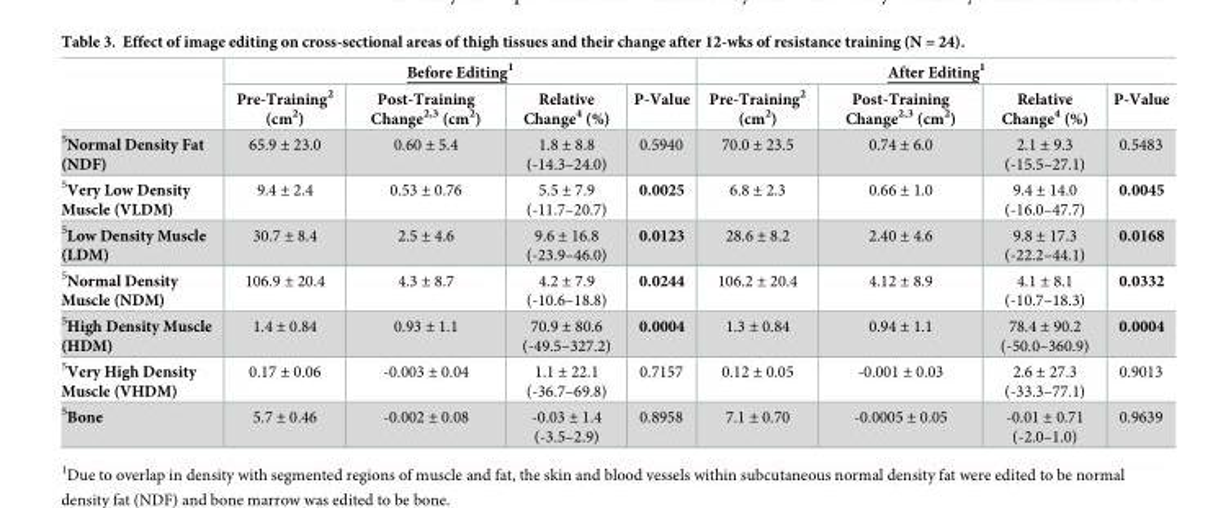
<table><thead><tr><td rowspan="2"></td><td colspan="4">Before Editing<sup>1</sup></td><td colspan="4">After Editing<sup>1</sup></td></tr><tr><td>Pre-Training<sup>2</sup> (cm<sup>2</sup>)</td><td>Post-Training Change<sup>2,3</sup> (cm<sup>2</sup>)</td><td>Relative Change<sup>4</sup> (%)</td><td>P-Value</td><td>Pre-Training<sup>2</sup> (cm<sup>2</sup>)</td><td>Post-Training Change<sup>2,3</sup> (cm<sup>2</sup>)</td><td>Relative Change<sup>4</sup> (%)</td><td>P-Value</td></tr></thead><tbody><tr><td><sup>5</sup>Normal Density Fat (NDF)</td><td>65.9 ± 23.0</td><td>0.60 ± 5.4</td><td>1.8 ± 8.8 (-14.3–24.0)</td><td>0.5940</td><td>70.0 ± 23.5</td><td>0.74 ± 6.0</td><td>2.1 ± 9.3 (-15.5–27.1)</td><td>0.5483</td></tr><tr><td><sup>5</sup>Very Low Density Muscle (VLDM)</td><td>9.4 ± 2.4</td><td>0.53 ± 0.76</td><td>5.5 ± 7.9 (-11.7–20.7)</td><td>0.0025</td><td>6.8 ± 2.3</td><td>0.66 ± 1.0</td><td>9.4 ± 14.0 (-16.0–47.7)</td><td>0.0045</td></tr><tr><td><sup>5</sup>Low Density Muscle (LDM)</td><td>30.7 ± 8.4</td><td>2.5 ± 4.6</td><td>9.6 ± 16.8 (-23.9–46.0)</td><td>0.0123</td><td>28.6 ± 8.2</td><td>2.40 ± 4.6</td><td>9.8 ± 17.3 (-22.2–44.1)</td><td>0.0168</td></tr><tr><td><sup>5</sup>Normal Density Muscle (NDM)</td><td>106.9 ± 20.4</td><td>4.3 ± 8.7</td><td>4.2 ± 7.9 (-10.6–18.8)</td><td>0.0244</td><td>106.2 ± 20.4</td><td>4.12 ± 8.9</td><td>4.1 ± 8.1 (-10.7–18.3)</td><td>0.0332</td></tr><tr><td><sup>5</sup>High Density Muscle (HDM)</td><td>1.4 ± 0.84</td><td>0.93 ± 1.1</td><td>70.9 ± 80.6 (-49.5–327.2)</td><td>0.0004</td><td>1.3 ± 0.84</td><td>0.94 ± 1.1</td><td>78.4 ± 90.2 (-50.0–360.9)</td><td>0.0004</td></tr><tr><td><sup>5</sup>Very High Density Muscle (VHDM)</td><td>0.17 ± 0.06</td><td>-0.003 ± 0.04</td><td>1.1 ± 22.1 (-36.7–69.8)</td><td>0.7157</td><td>0.12 ± 0.05</td><td>-0.001 ± 0.03</td><td>2.6 ± 27.3 (-33.3–77.1)</td><td>0.9013</td></tr><tr><td><sup>5</sup>Bone</td><td>5.7 ± 0.46</td><td>-0.002 ± 0.08</td><td>-0.03 ± 1.4 (-3.5–2.9)</td><td>0.8958</td><td>7.1 ± 0.70</td><td>-0.0005 ± 0.05</td><td>-0.01 ± 0.71 (-2.0–1.0)</td><td>0.9639</td></tr></tbody></table>